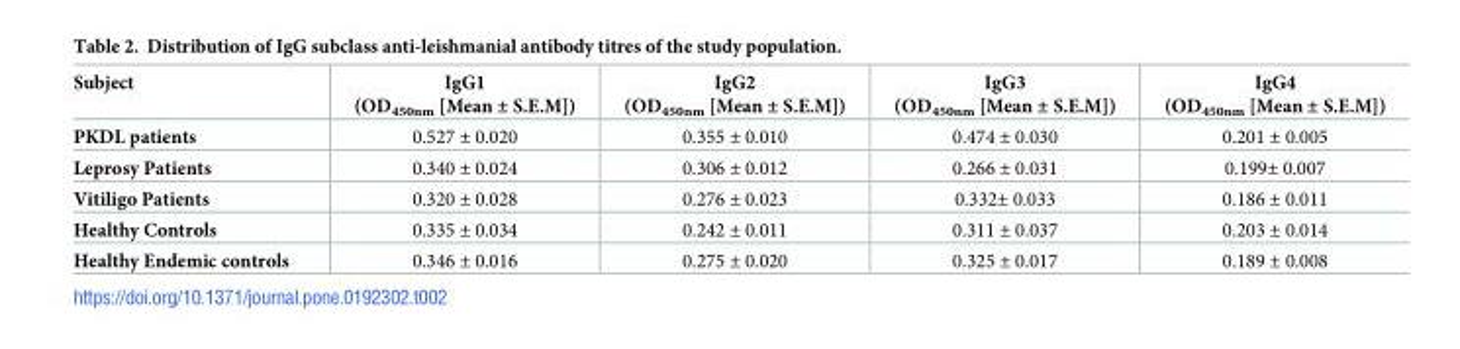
<table><thead><tr><td>Subject</td><td>IgG1 (OD<sub>450nm</sub> [Mean ± S.E.M])</td><td>IgG2 (OD<sub>450nm</sub> [Mean ± S.E.M])</td><td>IgG3 (OD<sub>450nm</sub> [Mean ± S.E.M])</td><td>IgG4 (OD<sub>450nm</sub> [Mean ± S.E.M])</td></tr></thead><tbody><tr><td>PKDL patients</td><td>0.527 ± 0.020</td><td>0.355 ± 0.010</td><td>0.474 ± 0.030</td><td>0.201 ± 0.005</td></tr><tr><td>Leprosy Patients</td><td>0.340 ± 0.024</td><td>0.306 ± 0.012</td><td>0.266 ± 0.031</td><td>0.199± 0.007</td></tr><tr><td>Vitiligo Patients</td><td>0.320 ± 0.028</td><td>0.276 ± 0.023</td><td>0.332± 0.033</td><td>0.186 ± 0.011</td></tr><tr><td>Healthy Controls</td><td>0.335 ± 0.034</td><td>0.242 ± 0.011</td><td>0.311 ± 0.037</td><td>0.203 ± 0.014</td></tr><tr><td>Healthy Endemic controls</td><td>0.346 ± 0.016</td><td>0.275 ± 0.020</td><td>0.325 ± 0.017</td><td>0.189 ± 0.008</td></tr></tbody></table>